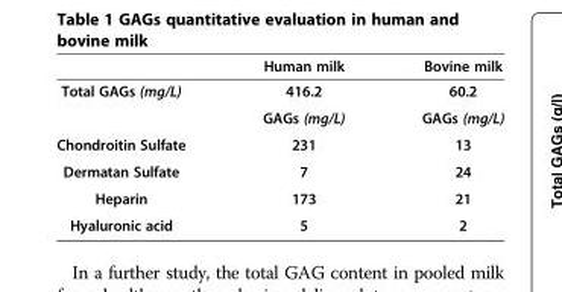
<table><thead><tr><td></td><td>Human milk</td><td>Bovine milk</td></tr></thead><tbody><tr><td rowspan="2">Total GAGs (mg/L)</td><td>416.2</td><td>60.2</td></tr><tr><td>GAGs (mg/L)</td><td>GAGs (mg/L)</td></tr><tr><td>Chondroitin Sulfate</td><td>231</td><td>13</td></tr><tr><td>Dermatan Sulfate</td><td>7</td><td>24</td></tr><tr><td>Heparin</td><td>173</td><td>21</td></tr><tr><td>Hyaluronic acid</td><td>5</td><td>2</td></tr></tbody></table>